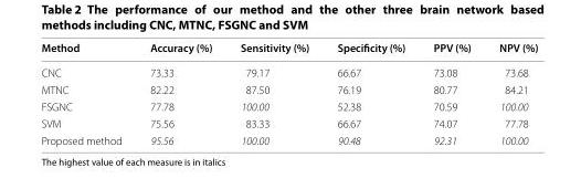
<table><thead><tr><td>Method</td><td>Accuracy (%)</td><td>Sensitivity (%)</td><td>Specificity (%)</td><td>PPV (%)</td><td>NPV (%)</td></tr></thead><tbody><tr><td>CNC</td><td>73.33</td><td>79.17</td><td>66.67</td><td>73.08</td><td>73.68</td></tr><tr><td>MTNC</td><td>82.22</td><td>87.50</td><td>76.19</td><td>80.77</td><td>84.21</td></tr><tr><td>FSGNC</td><td>77.78</td><td>100.00</td><td>52.38</td><td>70.59</td><td>100.00</td></tr><tr><td>SVM</td><td>75.56</td><td>83.33</td><td>66.67</td><td>74.07</td><td>77.78</td></tr><tr><td>Proposed method</td><td>95.56</td><td>100.00</td><td>90.48</td><td>92.31</td><td>100.00</td></tr></tbody></table>